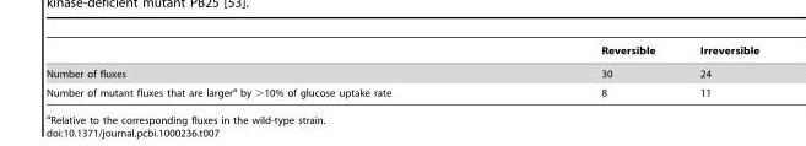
<table><thead><tr><td></td><td>Reversible</td><td>Irreversible</td></tr></thead><tbody><tr><td>Number of fluxes</td><td>30</td><td>24</td></tr><tr><td>Number of mutant fluxes that are larger<sup>a</sup> by &gt;10% of glucose uptake rate</td><td>8</td><td>11</td></tr></tbody></table>